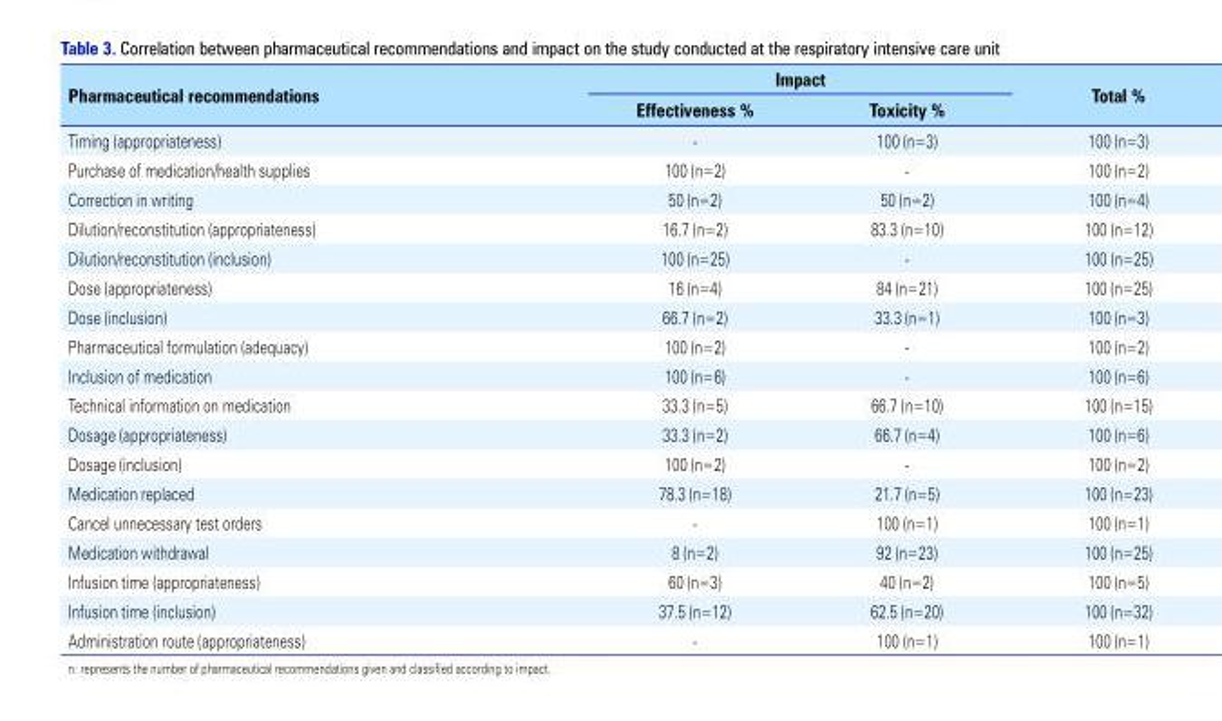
<table><thead><tr><td rowspan="2">Pharmaceutical recommendations</td><td colspan="2">Impact</td><td rowspan="2">Total %</td></tr><tr><td>Effectiveness %</td><td>Toxicity %</td></tr></thead><tbody><tr><td>Timing (appropriateness)</td><td>-</td><td>100 (n=3)</td><td>100 (n=3)</td></tr><tr><td>Purchase of medication/health supplies</td><td>100 (n=2)</td><td>-</td><td>100 (n=2)</td></tr><tr><td>Correction in writing</td><td>50 (n=2)</td><td>50 (n=2)</td><td>100 (n=4)</td></tr><tr><td>Dilution/reconstitution (appropriateness)</td><td>16.7 (n=2)</td><td>83.3 (n=10)</td><td>100 (n=12)</td></tr><tr><td>Dilution/reconstitution (inclusion)</td><td>100 (n=25)</td><td>-</td><td>100 (n=25)</td></tr><tr><td>Dose (appropriateness)</td><td>16 (n=4)</td><td>84 (n=21)</td><td>100 (n=25)</td></tr><tr><td>Dose (inclusion)</td><td>66.7 (n=2)</td><td>33.3 (n=1)</td><td>100 (n=3)</td></tr><tr><td>Pharmaceutical formulation (adequacy)</td><td>100 (n=2)</td><td>-</td><td>100 (n=2)</td></tr><tr><td>Inclusion of medication</td><td>100 (n=6)</td><td>-</td><td>100 (n=6)</td></tr><tr><td>Technical information on medication</td><td>33.3 (n=5)</td><td>66.7 (n=10)</td><td>100 (n=15)</td></tr><tr><td>Dosage (appropriateness)</td><td>33.3 (n=2)</td><td>66.7 (n=4)</td><td>100 (n=6)</td></tr><tr><td>Dosage (inclusion)</td><td>100 (n=2)</td><td>-</td><td>100 (n=2)</td></tr><tr><td>Medication replaced</td><td>78.3 (n=18)</td><td>21.7 (n=5)</td><td>100 (n=23)</td></tr><tr><td>Cancel unnecessary test orders</td><td>-</td><td>100 (n=1)</td><td>100 (n=1)</td></tr><tr><td>Medication withdrawal</td><td>8 (n=2)</td><td>92 (n=23)</td><td>100 (n=25)</td></tr><tr><td>Infusion time (appropriateness)</td><td>60 (n=3)</td><td>40 (n=2)</td><td>100 (n=5)</td></tr><tr><td>Infusion time (inclusion)</td><td>37.5 (n=12)</td><td>62.5 (n=20)</td><td>100 (n=32)</td></tr><tr><td>Administration route (appropriateness)</td><td>-</td><td>100 (n=1)</td><td>100 (n=1)</td></tr></tbody></table>